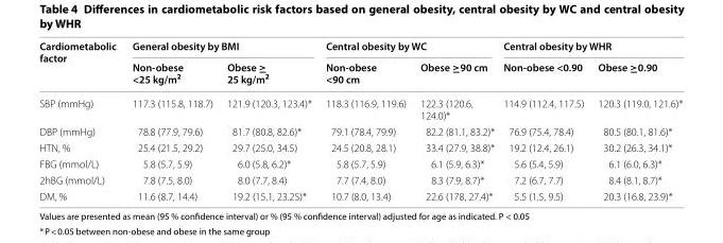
<table><thead><tr><td rowspan="2">Cardiometabolic factor</td><td colspan="2">General obesity by BMI</td><td colspan="2">Central obesity by WC</td><td colspan="2">Central obesity by WHR</td></tr><tr><td>Non-obese &lt;25 kg/m<sup>2</sup></td><td>Obese ≥ 25 kg/m<sup>2</sup></td><td>Non-obese &lt;90 cm</td><td>Obese ≥90 cm</td><td>Non-obese &lt;0.90</td><td>Obese ≥0.90</td></tr></thead><tbody><tr><td>SBP (mmHg)</td><td>117.3 (115.8, 118.7)</td><td>121.9 (120.3, 123.4)*</td><td>118.3 (116.9, 119.6)</td><td>122.3 (120.6, 124.0)*</td><td>114.9 (112.4, 117.5)</td><td>120.3 (119.0, 121.6)*</td></tr><tr><td>DBP (mmHg)</td><td>78.8 (77.9, 79.6)</td><td>81.7 (80.8, 82.6)*</td><td>79.1 (78.4, 79.9)</td><td>82.2 (81.1, 83.2)*</td><td>76.9 (75.4, 78.4)</td><td>80.5 (80.1, 81.6)*</td></tr><tr><td>HTN, %</td><td>25.4 (21.5, 29.2)</td><td>29.7 (25.0, 34.5)</td><td>24.5 (20.8, 28.1)</td><td>33.4 (27.9, 38.8)*</td><td>19.2 (12.4, 26.1)</td><td>30.2 (26.3, 34.1)*</td></tr><tr><td>FBG (mmol/L)</td><td>5.8 (5.7, 5.9)</td><td>6.0 (5.8, 6.2)*</td><td>5.8 (5.7, 5.9)</td><td>6.1 (5.9, 6.3)*</td><td>5.6 (5.4, 5.9)</td><td>6.1 (6.0, 6.3)*</td></tr><tr><td>2hBG (mmol/L)</td><td>7.8 (7.5, 8.0)</td><td>8.0 (7.7, 8.4)</td><td>7.7 (7.4, 8.0)</td><td>8.3 (7.9, 8.7)*</td><td>7.2 (6.7, 7.7)</td><td>8.4 (8.1, 8.7)*</td></tr><tr><td>DM, %</td><td>11.6 (8.7, 14.4)</td><td>19.2 (15.1, 23.2S)*</td><td>10.7 (8.0, 13.4)</td><td>22.6 (178, 27.4)*</td><td>5.5 (1.5, 9.5)</td><td>20.3 (16.8, 23.9)*</td></tr></tbody></table>